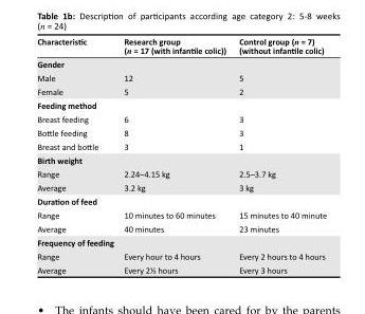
<table><thead><tr><td>Characteristic</td><td>Research group (n = 17 (with infantile colic))</td><td>Control group (n = 7) (without infantile colic)</td></tr></thead><tbody><tr><td colspan="3">Gender</td></tr><tr><td>Male</td><td>12</td><td>5</td></tr><tr><td>Female</td><td>5</td><td>2</td></tr><tr><td colspan="3">Feeding method</td></tr><tr><td>Breast feeding</td><td>6</td><td>3</td></tr><tr><td>Bottle feeding</td><td>8</td><td>3</td></tr><tr><td>Breast and bottle</td><td>3</td><td>1</td></tr><tr><td colspan="3">Birth weight</td></tr><tr><td>Range</td><td>2.24–4.15 kg</td><td>2.5–3.7 kg</td></tr><tr><td>Average</td><td>3.2 kg</td><td>3 kg</td></tr><tr><td colspan="3">Duration of feed</td></tr><tr><td>Range</td><td>10 minutes to 60 minutes</td><td>15 minutes to 40 minute</td></tr><tr><td>Average</td><td>40 minutes</td><td>23 minutes</td></tr><tr><td colspan="3">Frequency of feeding</td></tr><tr><td>Range</td><td>Every hour to 4 hours</td><td>Every 2 hours to 4 hours</td></tr><tr><td>Average</td><td>Every 2½ hours</td><td>Every 3 hours</td></tr></tbody></table>